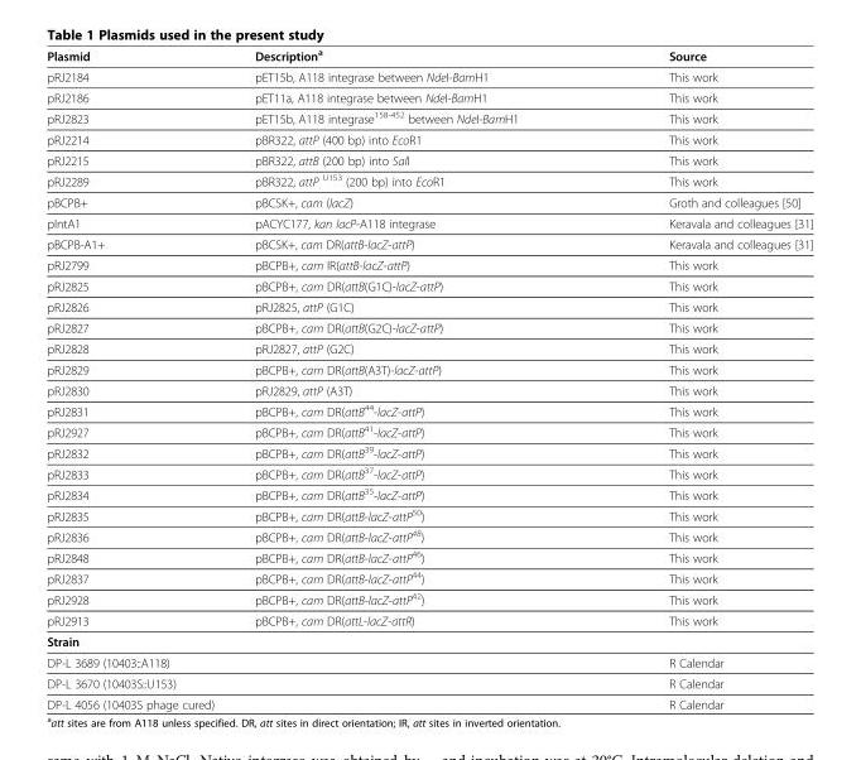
<table><thead><tr><td>Plasmid</td><td>Description<sup>a</sup></td><td>Source</td></tr></thead><tbody><tr><td>pRJ2184</td><td>pET15b, A118 integrase between NdeI-BamH1</td><td>This work</td></tr><tr><td>pRJ2186</td><td>pET11a, A118 integrase between NdeI-BamH1</td><td>This work</td></tr><tr><td>pRJ2823</td><td>pET15b, A118 integrase<sup>158-452</sup> between NdeI-BamH1</td><td>This work</td></tr><tr><td>pRJ2214</td><td>pBR322, attP (400 bp) into EcoR1</td><td>This work</td></tr><tr><td>pRJ2215</td><td>pBR322, attB (200 bp) into SalI</td><td>This work</td></tr><tr><td>pRJ2289</td><td>pBR322, attP <sup>U153</sup> (200 bp) into EcoR1</td><td>This work</td></tr><tr><td>pBCPB+</td><td>pBCSK+, cam (lacZ)</td><td>Groth and colleagues [50]</td></tr><tr><td>pIntA1</td><td>pACYC177, kan lacP-A118 integrase</td><td>Keravala and colleagues [31]</td></tr><tr><td>pBCPB-A1+</td><td>pBCSK+, cam DR(attB-lacZ-attP)</td><td>Keravala and colleagues [31]</td></tr><tr><td>pRJ2799</td><td>pBCPB+, cam IR(attB-lacZ-attP)</td><td>This work</td></tr><tr><td>pRJ2825</td><td>pBCPB+, cam DR(attB(G1C)-lacZ-attP)</td><td>This work</td></tr><tr><td>pRJ2826</td><td>pRJ2825, attP (G1C)</td><td>This work</td></tr><tr><td>pRJ2827</td><td>pBCPB+, cam DR(attB(G2C)-lacZ-attP)</td><td>This work</td></tr><tr><td>pRJ2828</td><td>pRJ2827, attP (G2C)</td><td>This work</td></tr><tr><td>pRJ2829</td><td>pBCPB+, cam DR(attB(A3T)-lacZ-attP)</td><td>This work</td></tr><tr><td>pRJ2830</td><td>pRJ2829, attP (A3T)</td><td>This work</td></tr><tr><td>pRJ2831</td><td>pBCPB+, cam DR(attB<sup>44</sup>-lacZ-attP)</td><td>This work</td></tr><tr><td>pRJ2927</td><td>pBCPB+, cam DR(attB<sup>41</sup>-lacZ-attP)</td><td>This work</td></tr><tr><td>pRJ2832</td><td>pBCPB+, cam DR(attB<sup>39</sup>-lacZ-attP)</td><td>This work</td></tr><tr><td>pRJ2833</td><td>pBCPB+, cam DR(attB<sup>37</sup>-lacZ-attP)</td><td>This work</td></tr><tr><td>pRJ2834</td><td>pBCPB+, cam DR(attB<sup>35</sup>-lacZ-attP)</td><td>This work</td></tr><tr><td>pRJ2835</td><td>pBCPB+, cam DR(attB-lacZ-attP<sup>50</sup>)</td><td>This work</td></tr><tr><td>pRJ2836</td><td>pBCPB+, cam DR(attB-lacZ-attP<sup>48</sup>)</td><td>This work</td></tr><tr><td>pRJ2848</td><td>pBCPB+, cam DR(attB-lacZ-attP<sup>46</sup>)</td><td>This work</td></tr><tr><td>pRJ2837</td><td>pBCPB+, cam DR(attB-lacZ-attP<sup>44</sup>)</td><td>This work</td></tr><tr><td>pRJ2928</td><td>pBCPB+, cam DR(attB-lacZ-attP<sup>42</sup>)</td><td>This work</td></tr><tr><td>pRJ2913</td><td>pBCPB+, cam DR(attL-lacZ-attR)</td><td>This work</td></tr><tr><td colspan="3">Strain</td></tr><tr><td colspan="2">DP-L 3689 (10403::A118)</td><td>R Calendar</td></tr><tr><td colspan="2">DP-L 3670 (10403S::U153)</td><td>R Calendar</td></tr><tr><td colspan="2">DP-L 4056 (10403S phage cured)</td><td>R Calendar</td></tr></tbody></table>